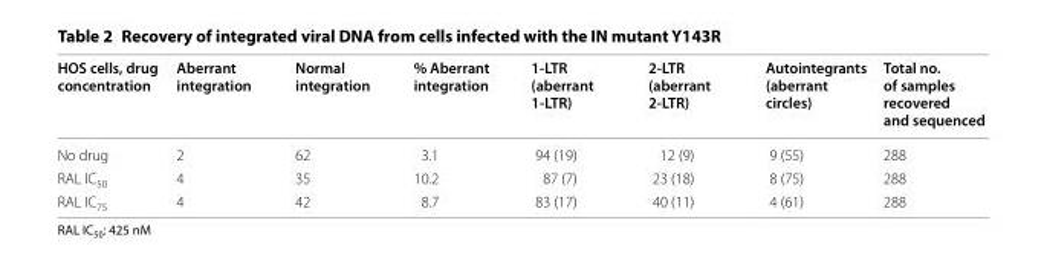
<table><thead><tr><td>HOS cells, drug concentration</td><td>Aberrant integration</td><td>Normal integration</td><td>% Aberrant integration</td><td>1‑LTR (aberrant 1‑LTR)</td><td>2‑LTR (aberrant 2‑LTR)</td><td>Autointegrants (aberrant circles)</td><td>Total no. of samples recovered and sequenced</td></tr></thead><tbody><tr><td>No drug</td><td>2</td><td>62</td><td>3.1</td><td>94 (19)</td><td>12 (9)</td><td>9 (55)</td><td>288</td></tr><tr><td>RAL IC<sub>50</sub></td><td>4</td><td>35</td><td>10.2</td><td>87 (7)</td><td>23 (18)</td><td>8 (75)</td><td>288</td></tr><tr><td>RAL IC<sub>75</sub></td><td>4</td><td>42</td><td>8.7</td><td>83 (17)</td><td>40 (11)</td><td>4 (61)</td><td>288</td></tr></tbody></table>